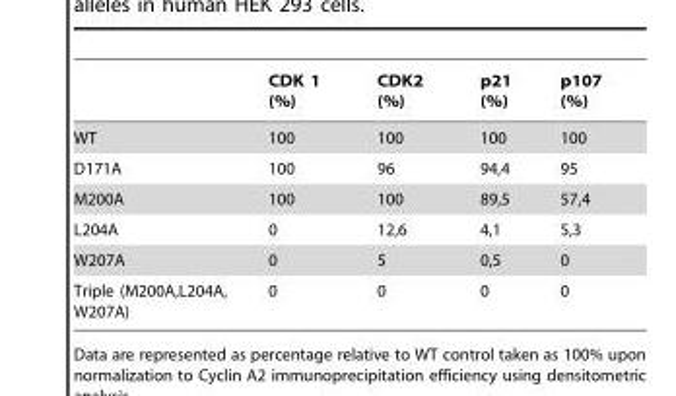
<table><thead><tr><td></td><td>CDK 1 (%)</td><td>CDK2 (%)</td><td>p21 (%)</td><td>p107 (%)</td></tr></thead><tbody><tr><td>WT</td><td>100</td><td>100</td><td>100</td><td>100</td></tr><tr><td>D171A</td><td>100</td><td>96</td><td>94,4</td><td>95</td></tr><tr><td>M200A</td><td>100</td><td>100</td><td>89,5</td><td>57,4</td></tr><tr><td>L204A</td><td>0</td><td>12,6</td><td>4,1</td><td>5,3</td></tr><tr><td>W207A</td><td>0</td><td>5</td><td>0,5</td><td>0</td></tr><tr><td>Triple (M200A,L204A, W207A)</td><td>0</td><td>0</td><td>0</td><td>0</td></tr></tbody></table>